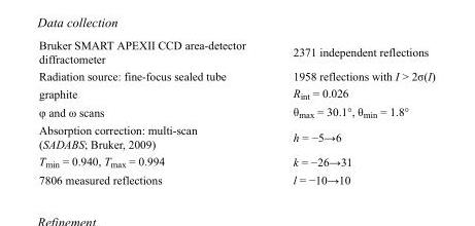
<table><tbody><tr><td>Bruker SMART APEXII CCD area-detector diffractometer</td><td>2371 independent reflections</td></tr><tr><td>Radiation source: fine-focus sealed tube</td><td>1958 reflections with I &gt; 2σ(I)</td></tr><tr><td>graphite</td><td>R<sub>int</sub> = 0.026</td></tr><tr><td>φ and ω scans</td><td>θ<sub>max</sub> = 30.1°, θ<sub>min</sub> = 1.8°</td></tr><tr><td>Absorption correction: multi-scan (SADABS; Bruker, 2009)</td><td>h = −5→6</td></tr><tr><td>T<sub>min</sub> = 0.940, T<sub>max</sub> = 0.994</td><td>k = −26→31</td></tr><tr><td>7806 measured reflections</td><td>l = −10→10</td></tr></tbody></table>